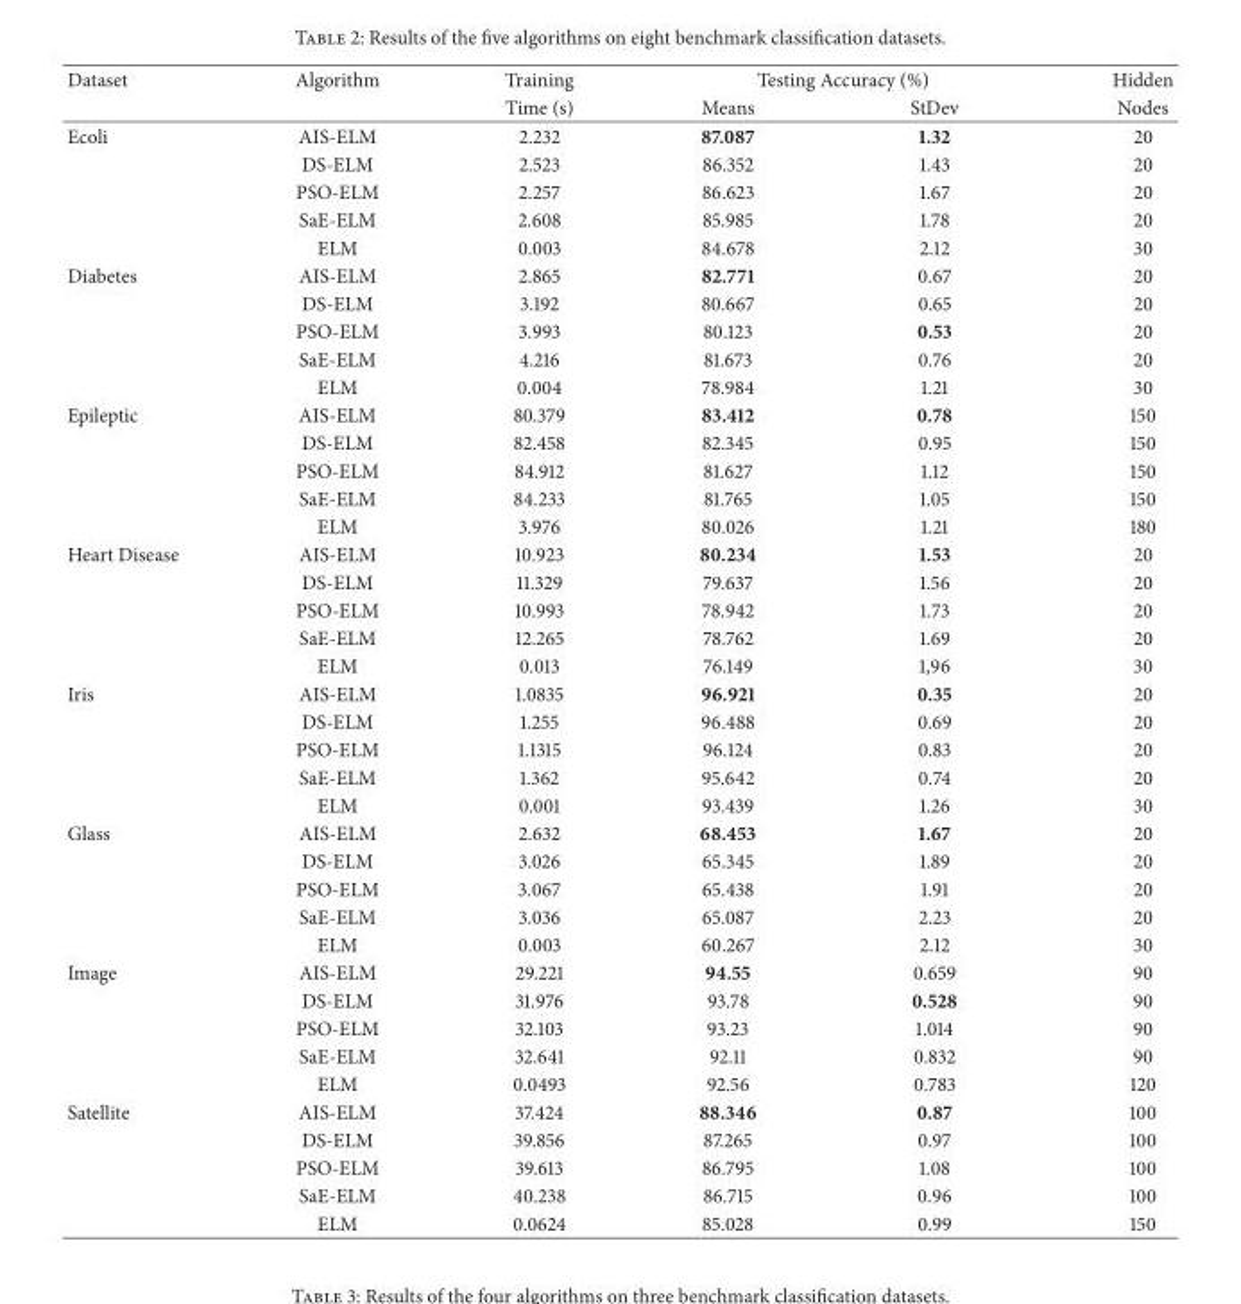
<table><thead><tr><td rowspan="2">Dataset</td><td rowspan="2">Algorithm</td><td rowspan="2">Training Time (s)</td><td colspan="2">Testing Accuracy (%)</td><td rowspan="2">Hidden Nodes</td></tr><tr><td>Means</td><td>StDev</td></tr></thead><tbody><tr><td rowspan="5">Ecoli</td><td>AIS-ELM</td><td>2.232</td><td>87.087</td><td>1.32</td><td>20</td></tr><tr><td>DS-ELM</td><td>2.523</td><td>86.352</td><td>1.43</td><td>20</td></tr><tr><td>PSO-ELM</td><td>2.257</td><td>86.623</td><td>1.67</td><td>20</td></tr><tr><td>SaE-ELM</td><td>2.608</td><td>85.985</td><td>1.78</td><td>20</td></tr><tr><td>ELM</td><td>0.003</td><td>84.678</td><td>2.12</td><td>30</td></tr><tr><td rowspan="5">Diabetes</td><td>AIS-ELM</td><td>2.865</td><td>82.771</td><td>0.67</td><td>20</td></tr><tr><td>DS-ELM</td><td>3.192</td><td>80.667</td><td>0.65</td><td>20</td></tr><tr><td>PSO-ELM</td><td>3.993</td><td>80.123</td><td>0.53</td><td>20</td></tr><tr><td>SaE-ELM</td><td>4.216</td><td>81.673</td><td>0.76</td><td>20</td></tr><tr><td>ELM</td><td>0.004</td><td>78.984</td><td>1.21</td><td>30</td></tr><tr><td rowspan="5">Epileptic</td><td>AIS-ELM</td><td>80.379</td><td>83.412</td><td>0.78</td><td>150</td></tr><tr><td>DS-ELM</td><td>82.458</td><td>82.345</td><td>0.95</td><td>150</td></tr><tr><td>PSO-ELM</td><td>84.912</td><td>81.627</td><td>1.12</td><td>150</td></tr><tr><td>SaE-ELM</td><td>84.233</td><td>81.765</td><td>1.05</td><td>150</td></tr><tr><td>ELM</td><td>3.976</td><td>80.026</td><td>1.21</td><td>180</td></tr><tr><td rowspan="5">Heart Disease</td><td>AIS-ELM</td><td>10.923</td><td>80.234</td><td>1.53</td><td>20</td></tr><tr><td>DS-ELM</td><td>11.329</td><td>79.637</td><td>1.56</td><td>20</td></tr><tr><td>PSO-ELM</td><td>10.993</td><td>78.942</td><td>1.73</td><td>20</td></tr><tr><td>SaE-ELM</td><td>12.265</td><td>78.762</td><td>1.69</td><td>20</td></tr><tr><td>ELM</td><td>0.013</td><td>76.149</td><td>1,96</td><td>30</td></tr><tr><td rowspan="5">Iris</td><td>AIS-ELM</td><td>1.0835</td><td>96.921</td><td>0.35</td><td>20</td></tr><tr><td>DS-ELM</td><td>1.255</td><td>96.488</td><td>0.69</td><td>20</td></tr><tr><td>PSO-ELM</td><td>1.1315</td><td>96.124</td><td>0.83</td><td>20</td></tr><tr><td>SaE-ELM</td><td>1.362</td><td>95.642</td><td>0.74</td><td>20</td></tr><tr><td>ELM</td><td>0.001</td><td>93.439</td><td>1.26</td><td>30</td></tr><tr><td rowspan="5">Glass</td><td>AIS-ELM</td><td>2.632</td><td>68.453</td><td>1.67</td><td>20</td></tr><tr><td>DS-ELM</td><td>3.026</td><td>65.345</td><td>1.89</td><td>20</td></tr><tr><td>PSO-ELM</td><td>3.067</td><td>65.438</td><td>1.91</td><td>20</td></tr><tr><td>SaE-ELM</td><td>3.036</td><td>65.087</td><td>2.23</td><td>20</td></tr><tr><td>ELM</td><td>0.003</td><td>60.267</td><td>2.12</td><td>30</td></tr><tr><td rowspan="5">Image</td><td>AIS-ELM</td><td>29.221</td><td>94.55</td><td>0.659</td><td>90</td></tr><tr><td>DS-ELM</td><td>31.976</td><td>93.78</td><td>0.528</td><td>90</td></tr><tr><td>PSO-ELM</td><td>32.103</td><td>93.23</td><td>1.014</td><td>90</td></tr><tr><td>SaE-ELM</td><td>32.641</td><td>92.11</td><td>0.832</td><td>90</td></tr><tr><td>ELM</td><td>0.0493</td><td>92.56</td><td>0.783</td><td>120</td></tr><tr><td rowspan="5">Satellite</td><td>AIS-ELM</td><td>37.424</td><td>88.346</td><td>0.87</td><td>100</td></tr><tr><td>DS-ELM</td><td>39.856</td><td>87.265</td><td>0.97</td><td>100</td></tr><tr><td>PSO-ELM</td><td>39.613</td><td>86.795</td><td>1.08</td><td>100</td></tr><tr><td>SaE-ELM</td><td>40.238</td><td>86.715</td><td>0.96</td><td>100</td></tr><tr><td>ELM</td><td>0.0624</td><td>85.028</td><td>0.99</td><td>150</td></tr></tbody></table>